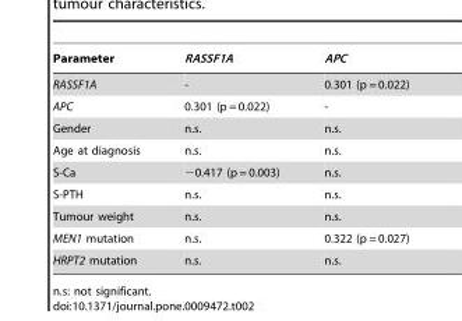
<table><thead><tr><td>Parameter</td><td>RASSF1A</td><td>APC</td></tr></thead><tbody><tr><td>RASSF1A</td><td>-</td><td>0.301 (p = 0.022)</td></tr><tr><td>APC</td><td>0.301 (p = 0.022)</td><td>-</td></tr><tr><td>Gender</td><td>n.s.</td><td>n.s.</td></tr><tr><td>Age at diagnosis</td><td>n.s.</td><td>n.s.</td></tr><tr><td>S-Ca</td><td>−0.417 (p = 0.003)</td><td>n.s.</td></tr><tr><td>S-PTH</td><td>n.s.</td><td>n.s.</td></tr><tr><td>Tumour weight</td><td>n.s.</td><td>n.s.</td></tr><tr><td>MEN1 mutation</td><td>n.s.</td><td>0.322 (p = 0.027)</td></tr><tr><td>HRPT2 mutation</td><td>n.s.</td><td>n.s.</td></tr></tbody></table>